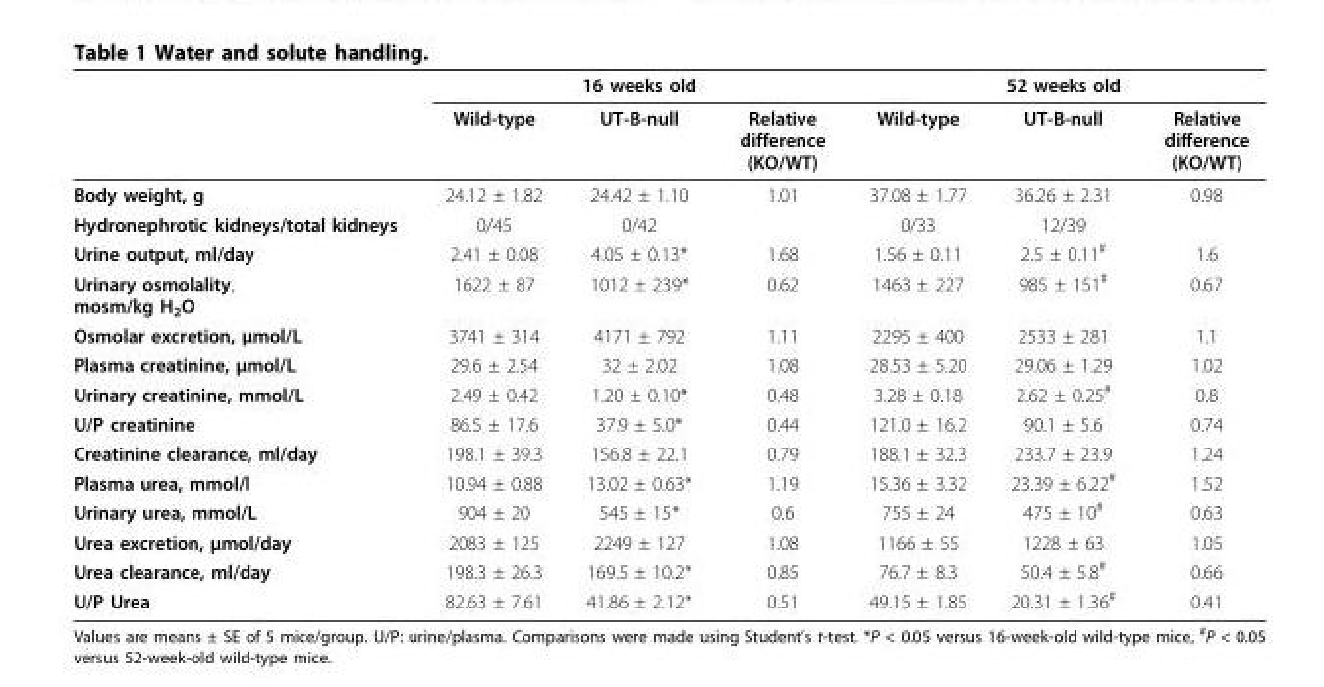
<table><thead><tr><td rowspan="2"></td><td rowspan="2">Wild-type</td><td rowspan="2">16 weeks old UT-B-null</td><td rowspan="2">Relative difference (KO/WT)</td><td rowspan="2">Wild-type</td><td rowspan="2">52 weeks old UT-B-null</td><td rowspan="2">Relative difference (KO/WT)</td></tr><tr></tr></thead><tbody><tr><td>Body weight, g</td><td>24.12 ± 1.82</td><td>24.42 ± 1.10</td><td>1.01</td><td>37.08 ± 1.77</td><td>36.26 ± 2.31</td><td>0.98</td></tr><tr><td>Hydronephrotic kidneys/total kidneys</td><td>0/45</td><td>0/42</td><td></td><td>0/33</td><td>12/39</td><td></td></tr><tr><td>Urine output, ml/day</td><td>2.41 ± 0.08</td><td>4.05 ± 0.13*</td><td>1.68</td><td>1.56 ± 0.11</td><td>2.5 ± 0.11<sup>#</sup></td><td>1.6</td></tr><tr><td>Urinary osmolality, mosm/kg H<sub>2</sub>O</td><td>1622 ± 87</td><td>1012 ± 239*</td><td>0.62</td><td>1463 ± 227</td><td>985 ± 151<sup>#</sup></td><td>0.67</td></tr><tr><td>Osmolar excretion, μmol/L</td><td>3741 ± 314</td><td>4171 ± 792</td><td>1.11</td><td>2295 ± 400</td><td>2533 ± 281</td><td>1.1</td></tr><tr><td>Plasma creatinine, μmol/L</td><td>29.6 ± 2.54</td><td>32 ± 2.02</td><td>1.08</td><td>28.53 ± 5.20</td><td>29.06 ± 1.29</td><td>1.02</td></tr><tr><td>Urinary creatinine, mmol/L</td><td>2.49 ± 0.42</td><td>1.20 ± 0.10*</td><td>0.48</td><td>3.28 ± 0.18</td><td>2.62 ± 0.25<sup>#</sup></td><td>0.8</td></tr><tr><td>U/P creatinine</td><td>86.5 ± 17.6</td><td>37.9 ± 5.0*</td><td>0.44</td><td>121.0 ± 16.2</td><td>90.1 ± 5.6</td><td>0.74</td></tr><tr><td>Creatinine clearance, ml/day</td><td>198.1 ± 39.3</td><td>156.8 ± 22.1</td><td>0.79</td><td>188.1 ± 32.3</td><td>233.7 ± 23.9</td><td>1.24</td></tr><tr><td>Plasma urea, mmol/l</td><td>10.94 ± 0.88</td><td>13.02 ± 0.63*</td><td>1.19</td><td>15.36 ± 3.32</td><td>23.39 ± 6.22<sup>#</sup></td><td>1.52</td></tr><tr><td>Urinary urea, mmol/L</td><td>904 ± 20</td><td>545 ± 15*</td><td>0.6</td><td>755 ± 24</td><td>475 ± 10<sup>#</sup></td><td>0.63</td></tr><tr><td>Urea excretion, μmol/day</td><td>2083 ± 125</td><td>2249 ± 127</td><td>1.08</td><td>1166 ± 55</td><td>1228 ± 63</td><td>1.05</td></tr><tr><td>Urea clearance, ml/day</td><td>198.3 ± 26.3</td><td>169.5 ± 10.2*</td><td>0.85</td><td>76.7 ± 8.3</td><td>50.4 ± 5.8<sup>#</sup></td><td>0.66</td></tr><tr><td>U/P Urea</td><td>82.63 ± 7.61</td><td>41.86 ± 2.12*</td><td>0.51</td><td>49.15 ± 1.85</td><td>20.31 ± 1.36<sup>#</sup></td><td>0.41</td></tr></tbody></table>